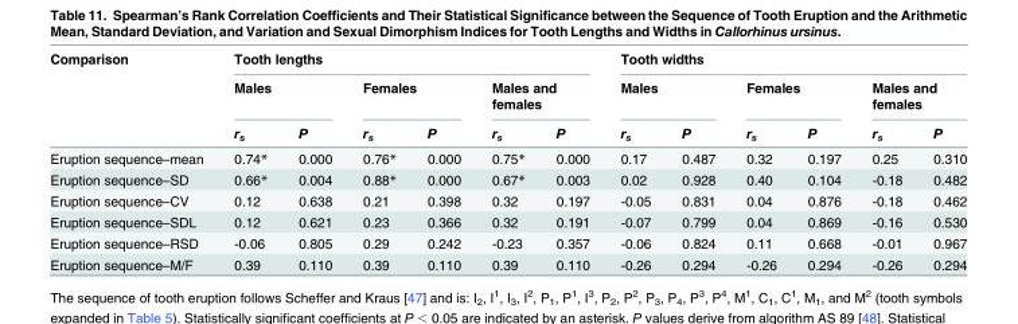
<table><thead><tr><td rowspan="3">Comparison</td><td colspan="6">Tooth lengths</td><td colspan="6">Tooth widths</td></tr><tr><td colspan="2">Males</td><td colspan="2">Females</td><td colspan="2">Males and females</td><td colspan="2">Males</td><td colspan="2">Females</td><td colspan="2">Males and females</td></tr><tr><td>r<sub>s</sub></td><td>P</td><td>r<sub>s</sub></td><td>P</td><td>r<sub>s</sub></td><td>P</td><td>r<sub>s</sub></td><td>P</td><td>r<sub>s</sub></td><td>P</td><td>r<sub>s</sub></td><td>P</td></tr></thead><tbody><tr><td>Eruption sequence–mean</td><td>0.74*</td><td>0.000</td><td>0.76*</td><td>0.000</td><td>0.75*</td><td>0.000</td><td>0.17</td><td>0.487</td><td>0.32</td><td>0.197</td><td>0.25</td><td>0.310</td></tr><tr><td>Eruption sequence–SD</td><td>0.66*</td><td>0.004</td><td>0.88*</td><td>0.000</td><td>0.67*</td><td>0.003</td><td>0.02</td><td>0.928</td><td>0.40</td><td>0.104</td><td>-0.18</td><td>0.482</td></tr><tr><td>Eruption sequence–CV</td><td>0.12</td><td>0.638</td><td>0.21</td><td>0.398</td><td>0.32</td><td>0.197</td><td>-0.05</td><td>0.831</td><td>0.04</td><td>0.876</td><td>-0.18</td><td>0.462</td></tr><tr><td>Eruption sequence–SDL</td><td>0.12</td><td>0.621</td><td>0.23</td><td>0.366</td><td>0.32</td><td>0.191</td><td>-0.07</td><td>0.799</td><td>0.04</td><td>0.869</td><td>-0.16</td><td>0.530</td></tr><tr><td>Eruption sequence–RSD</td><td>-0.06</td><td>0.805</td><td>0.29</td><td>0.242</td><td>-0.23</td><td>0.357</td><td>-0.06</td><td>0.824</td><td>0.11</td><td>0.668</td><td>-0.01</td><td>0.967</td></tr><tr><td>Eruption sequence–M/F</td><td>0.39</td><td>0.110</td><td>0.39</td><td>0.110</td><td>0.39</td><td>0.110</td><td>-0.26</td><td>0.294</td><td>-0.26</td><td>0.294</td><td>-0.26</td><td>0.294</td></tr></tbody></table>